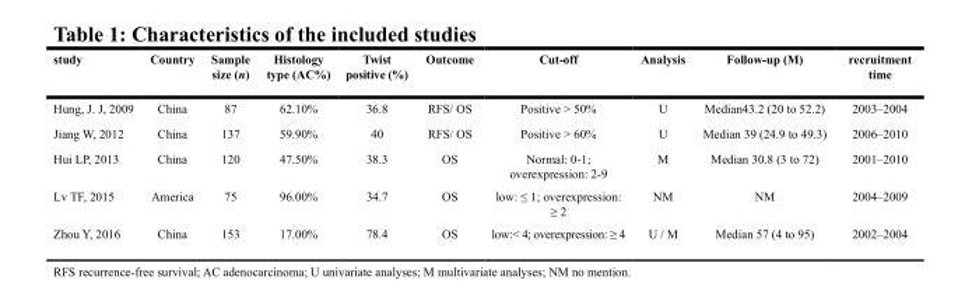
<table><thead><tr><td>study</td><td>Country</td><td>Sample size (n)</td><td>Histology type (AC%)</td><td>Twist positive (%)</td><td>Outcome</td><td>Cut-off</td><td>Analysis</td><td>Follow-up (M)</td><td>recruitment time</td></tr></thead><tbody><tr><td>Hung, J. J, 2009</td><td>China</td><td>87</td><td>62.10%</td><td>36.8</td><td>RFS/ OS</td><td>Positive &gt; 50%</td><td>U</td><td>Median43.2 (20 to 52.2)</td><td>2003–2004</td></tr><tr><td>Jiang W, 2012</td><td>China</td><td>137</td><td>59.90%</td><td>40</td><td>RFS/ OS</td><td>Positive &gt; 60%</td><td>U</td><td>Median 39 (24.9 to 49.3)</td><td>2006–2010</td></tr><tr><td>Hui LP, 2013</td><td>China</td><td>120</td><td>47.50%</td><td>38.3</td><td>OS</td><td>Normal: 0-1; overexpression: 2-9</td><td>M</td><td>Median 30.8 (3 to 72)</td><td>2001–2010</td></tr><tr><td>Lv TF, 2015</td><td>America</td><td>75</td><td>96.00%</td><td>34.7</td><td>OS</td><td>low: ≤ 1; overexpression: ≥ 2</td><td>NM</td><td>NM</td><td>2004–2009</td></tr><tr><td>Zhou Y, 2016</td><td>China</td><td>153</td><td>17.00%</td><td>78.4</td><td>OS</td><td>low:&lt; 4; overexpression: ≥ 4</td><td>U / M</td><td>Median 57 (4 to 95)</td><td>2002–2004</td></tr></tbody></table>